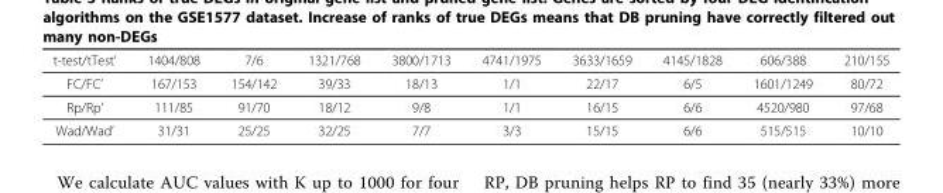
<table><thead><tr><td>t-test/tTest’</td><td>1404/808</td><td>7/6</td><td>1321/768</td><td>3800/1713</td><td>4741/1975</td><td>3633/1659</td><td>4145/1828</td><td>606/388</td><td>210/155</td></tr></thead><tbody><tr><td>FC/FC’</td><td>167/153</td><td>154/142</td><td>39/33</td><td>18/13</td><td>1/1</td><td>22/17</td><td>6/5</td><td>1601/1249</td><td>80/72</td></tr><tr><td>Rp/Rp’</td><td>111/85</td><td>91/70</td><td>18/12</td><td>9/8</td><td>1/1</td><td>16/15</td><td>6/6</td><td>4520/980</td><td>97/68</td></tr><tr><td>Wad/Wad’</td><td>31/31</td><td>25/25</td><td>32/25</td><td>7/7</td><td>3/3</td><td>15/15</td><td>6/6</td><td>515/515</td><td>10/10</td></tr></tbody></table>